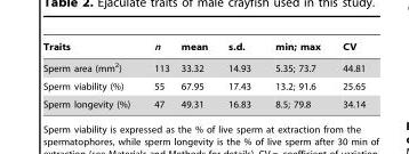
<table><thead><tr><td>Traits</td><td>n</td><td>mean</td><td>s.d.</td><td>min; max</td><td>CV</td></tr></thead><tbody><tr><td>Sperm area (mm<sup>2</sup>)</td><td>113</td><td>33.32</td><td>14.93</td><td>5.35; 73.7</td><td>44.81</td></tr><tr><td>Sperm viability (%)</td><td>55</td><td>67.95</td><td>17.43</td><td>13.2; 91.6</td><td>25.65</td></tr><tr><td>Sperm longevity (%)</td><td>47</td><td>49.31</td><td>16.83</td><td>8.5; 79.8</td><td>34.14</td></tr></tbody></table>